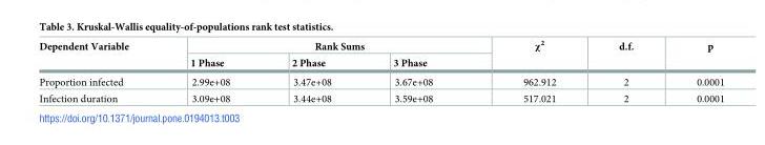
<table><thead><tr><td rowspan="2">Dependent Variable</td><td colspan="3">Rank Sums</td><td rowspan="2">χ<sup>2</sup></td><td rowspan="2">d.f.</td><td rowspan="2">p</td></tr><tr><td>1 Phase</td><td>2 Phase</td><td>3 Phase</td></tr></thead><tbody><tr><td>Proportion infected</td><td>2.99e+08</td><td>3.47e+08</td><td>3.67e+08</td><td>962.912</td><td>2</td><td>0.0001</td></tr><tr><td>Infection duration</td><td>3.09e+08</td><td>3.44e+08</td><td>3.59e+08</td><td>517.021</td><td>2</td><td>0.0001</td></tr></tbody></table>